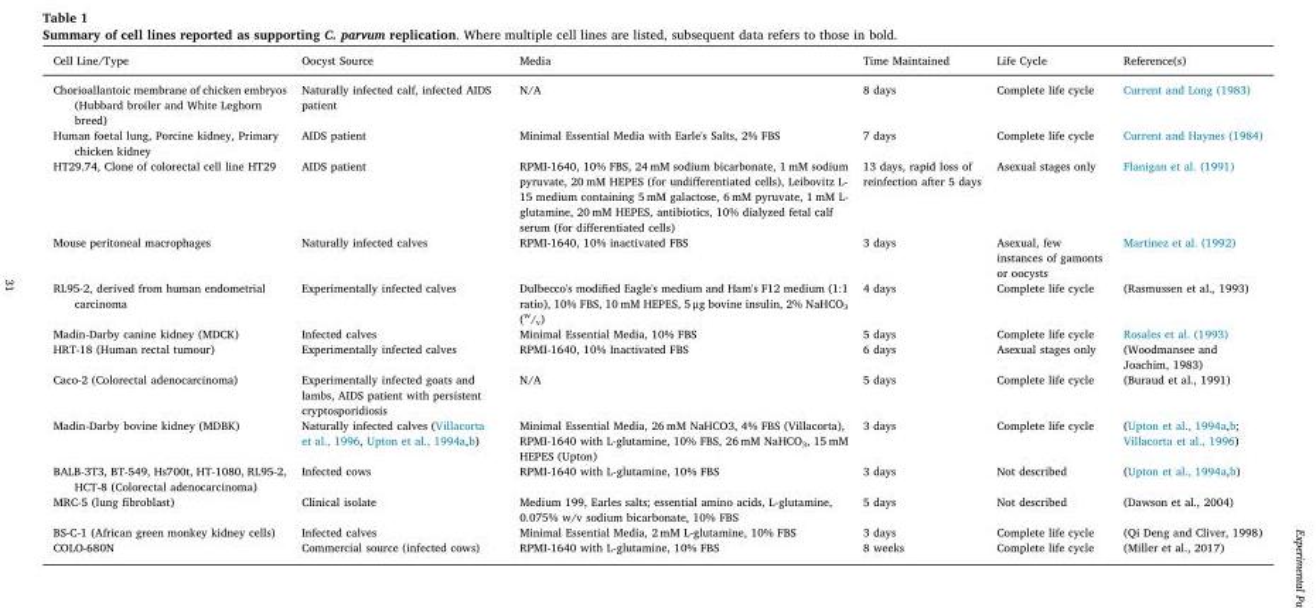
<table><thead><tr><td>Cell Line/Type</td><td>Oocyst Source</td><td>Media</td><td>Time Maintained</td><td>Life Cycle</td><td>Reference(s)</td></tr></thead><tbody><tr><td>Chorioallantoic membrane of chicken embryos (Hubbard broiler and White Leghorn breed)</td><td>Naturally infected calf, infected AIDS patient</td><td>N/A</td><td>8 days</td><td>Complete life cycle</td><td>Current and Long (1983)</td></tr><tr><td>Human foetal lung, Porcine kidney, Primary chicken kidney</td><td>AIDS patient</td><td>Minimal Essential Media with Earle&#x27;s Salts, 2% FBS</td><td>7 days</td><td>Complete life cycle</td><td>Current and Haynes (1984)</td></tr><tr><td>HT29.74, Clone of colorectal cell line HT29</td><td>AIDS patient</td><td>RPMI-1640, 10% FBS, 24 mM sodium bicarbonate, 1 mM sodium pyruvate, 20 mM HEPES (for undifferentiated cells), Leibovitz L- 15 medium containing 5 mM galactose, 6 mM pyruvate, 1 mM L- glutamine, 20 mM HEPES, antibiotics, 10% dialyzed fetal calf serum (for differentiated cells)</td><td>13 days, rapid loss of reinfection after 5 days</td><td>Asexual stages only</td><td>Flanigan et al. (1991)</td></tr><tr><td>Mouse peritoneal macrophages</td><td>Naturally infected calves</td><td>RPMI-1640, 10% inactivated FBS</td><td>3 days</td><td>Asexual, few instances of gamonts or oocysts</td><td>Martinez et al. (1992)</td></tr><tr><td>RL95-2, derived from human endometrial carcinoma</td><td>Experimentally infected calves</td><td>Dulbecco&#x27;s modified Eagle&#x27;s medium and Ham&#x27;s F12 medium (1:1 ratio), 10% FBS, 10 mM HEPES, 5 μg bovine insulin, 2% NaHCO<sub>3</sub> (<sup>w</sup>/<sub>v</sub>)</td><td>4 days</td><td>Complete life cycle</td><td>(Rasmussen et al., 1993)</td></tr><tr><td>Madin-Darby canine kidney (MDCK)</td><td>Infected calves</td><td>Minimal Essential Media, 10% FBS</td><td>5 days</td><td>Complete life cycle</td><td>Rosales et al. (1993)</td></tr><tr><td>HRT-18 (Human rectal tumour)</td><td>Experimentally infected calves</td><td>RPMI-1640, 10% Inactivated FBS</td><td>6 days</td><td>Asexual stages only</td><td>(Woodmansee and Joachim, 1983)</td></tr><tr><td>Caco-2 (Colorectal adenocarcinoma)</td><td>Experimentally infected goats and lambs, AIDS patient with persistent cryptosporidiosis</td><td>N/A</td><td>5 days</td><td>Complete life cycle</td><td>(Buraud et al., 1991)</td></tr><tr><td>Madin-Darby bovine kidney (MDBK)</td><td>Naturally infected calves (Villacorta et al., 1996, Upton et al., 1994a,b)</td><td>Minimal Essential Media, 26 mM NaHCO3, 4% FBS (Villacorta), RPMI-1640 with L-glutamine, 10% FBS, 26 mM NaHCO<sub>3</sub>, 15 mM HEPES (Upton)</td><td>3 days</td><td>Complete life cycle</td><td>(Upton et al., 1994a,b; Villacorta et al., 1996)</td></tr><tr><td>BALB-3T3, BT-549, Hs700t, HT-1080, RL95-2, HCT-8 (Colorectal adenocarcinoma)</td><td>Infected cows</td><td>RPMI-1640 with L-glutamine, 10% FBS</td><td>3 days</td><td>Not described</td><td>(Upton et al., 1994a,b)</td></tr><tr><td>MRC-5 (lung fibroblast)</td><td>Clinical isolate</td><td>Medium 199, Earles salts; essential amino acids, L-glutamine, 0.075% w/v sodium bicarbonate, 10% FBS</td><td>5 days</td><td>Not described</td><td>(Dawson et al., 2004)</td></tr><tr><td>BS-C-1 (African green monkey kidney cells)</td><td>Infected calves</td><td>Minimal Essential Media, 2 mM L-glutamine, 10% FBS</td><td>3 days</td><td>Complete life cycle</td><td>(Qi Deng and Cliver, 1998)</td></tr><tr><td>COLO-680N</td><td>Commercial source (infected cows)</td><td>RPMI-1640 with L-glutamine, 10% FBS</td><td>8 weeks</td><td>Complete life cycle</td><td>(Miller et al., 2017)</td></tr></tbody></table>